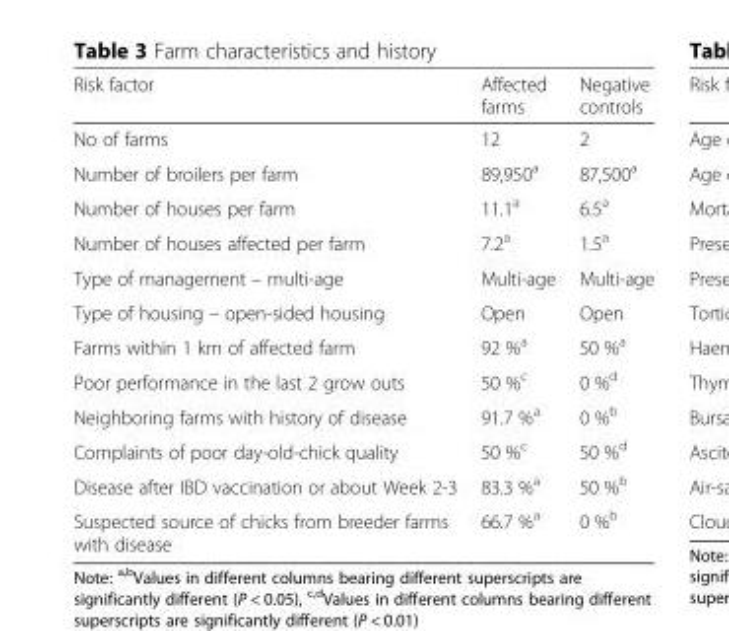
<table><thead><tr><td>Risk factor</td><td>Affected farms</td><td>Negative controls</td></tr></thead><tbody><tr><td>No of farms</td><td>12</td><td>2</td></tr><tr><td>Number of broilers per farm</td><td>89,950<sup>a</sup></td><td>87,500<sup>a</sup></td></tr><tr><td>Number of houses per farm</td><td>11.1<sup>a</sup></td><td>6.5<sup>a</sup></td></tr><tr><td>Number of houses affected per farm</td><td>7.2<sup>a</sup></td><td>1.5<sup>a</sup></td></tr><tr><td>Type of management – multi-age</td><td>Multi-age</td><td>Multi-age</td></tr><tr><td>Type of housing – open-sided housing</td><td>Open</td><td>Open</td></tr><tr><td>Farms within 1 km of affected farm</td><td>92 %<sup>a</sup></td><td>50 %<sup>a</sup></td></tr><tr><td>Poor performance in the last 2 grow outs</td><td>50 %<sup>c</sup></td><td>0 %<sup>d</sup></td></tr><tr><td>Neighboring farms with history of disease</td><td>91.7 %<sup>a</sup></td><td>0 %<sup>b</sup></td></tr><tr><td>Complaints of poor day-old-chick quality</td><td>50 %<sup>c</sup></td><td>50 %<sup>d</sup></td></tr><tr><td>Disease after IBD vaccination or about Week 2-3</td><td>83.3 %<sup>a</sup></td><td>50 %<sup>b</sup></td></tr><tr><td>Suspected source of chicks from breeder farms with disease</td><td>66.7 %<sup>a</sup></td><td>0 %<sup>b</sup></td></tr></tbody></table>